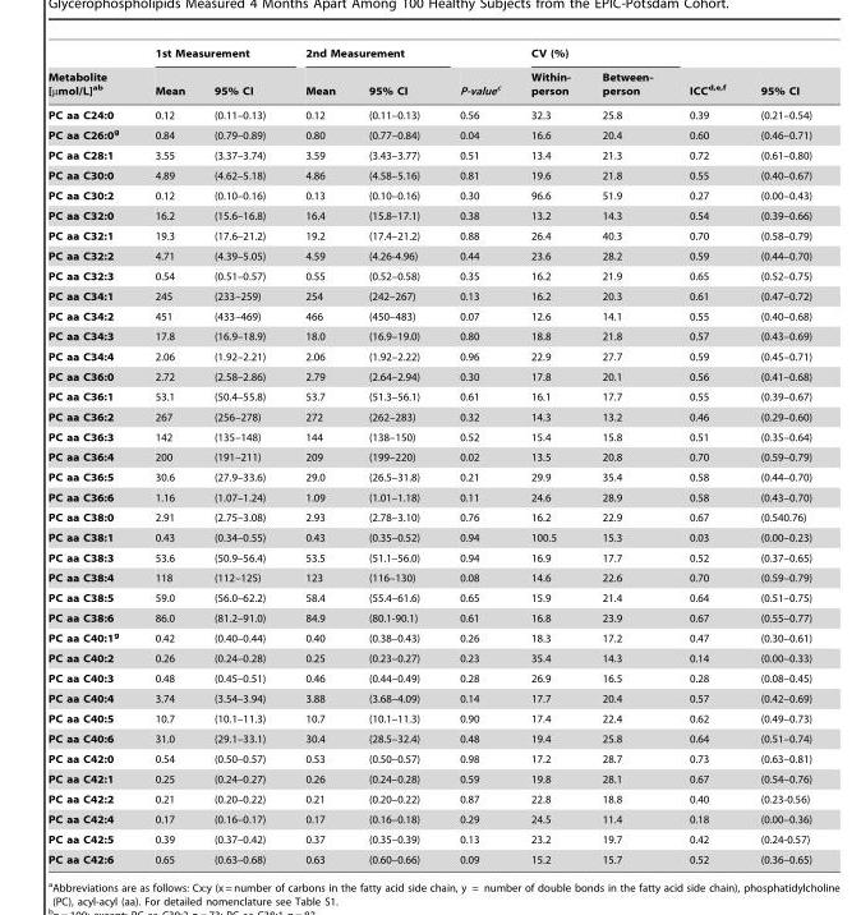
<table><thead><tr><td rowspan="2">Metabolite [µmol/L]<sup>ab</sup></td><td colspan="2">1st Measurement</td><td colspan="2">2nd Measurement</td><td rowspan="2">P-valuec</td><td colspan="2">CV (%)</td><td rowspan="2">ICC<sup>d,</sup>e<sup>,</sup>f</td><td rowspan="2">95% CI</td></tr><tr><td>Mean</td><td>95% CI</td><td>Mean</td><td>95% CI</td><td>Within- person</td><td>Between- person</td></tr></thead><tbody><tr><td>PC aa C24:0</td><td>0.12</td><td>(0.11–0.13)</td><td>0.12</td><td>(0.11–0.13)</td><td>0.56</td><td>32.3</td><td>25.8</td><td>0.39</td><td>(0.21–0.54)</td></tr><tr><td>PC aa C26:0g</td><td>0.84</td><td>(0.79–0.89)</td><td>0.80</td><td>(0.77–0.84)</td><td>0.04</td><td>16.6</td><td>20.4</td><td>0.60</td><td>(0.46–0.71)</td></tr><tr><td>PC aa C28:1</td><td>3.55</td><td>(3.37–3.74)</td><td>3.59</td><td>(3.43–3.77)</td><td>0.51</td><td>13.4</td><td>21.3</td><td>0.72</td><td>(0.61–0.80)</td></tr><tr><td>PC aa C30:0</td><td>4.89</td><td>(4.62–5.18)</td><td>4.86</td><td>(4.58–5.16)</td><td>0.81</td><td>19.6</td><td>21.8</td><td>0.55</td><td>(0.40–0.67)</td></tr><tr><td>PC aa C30:2</td><td>0.12</td><td>(0.10–0.16)</td><td>0.13</td><td>(0.10–0.16)</td><td>0.30</td><td>96.6</td><td>51.9</td><td>0.27</td><td>(0.00–0.43)</td></tr><tr><td>PC aa C32:0</td><td>16.2</td><td>(15.6–16.8)</td><td>16.4</td><td>(15.8–17.1)</td><td>0.38</td><td>13.2</td><td>14.3</td><td>0.54</td><td>(0.39–0.66)</td></tr><tr><td>PC aa C32:1</td><td>19.3</td><td>(17.6–21.2)</td><td>19.2</td><td>(17.4–21.2)</td><td>0.88</td><td>26.4</td><td>40.3</td><td>0.70</td><td>(0.58–0.79)</td></tr><tr><td>PC aa C32:2</td><td>4.71</td><td>(4.39–5.05)</td><td>4.59</td><td>(4.26-4.96)</td><td>0.44</td><td>23.6</td><td>28.2</td><td>0.59</td><td>(0.44–0.70)</td></tr><tr><td>PC aa C32:3</td><td>0.54</td><td>(0.51–0.57)</td><td>0.55</td><td>(0.52–0.58)</td><td>0.35</td><td>16.2</td><td>21.9</td><td>0.65</td><td>(0.52–0.75)</td></tr><tr><td>PC aa C34:1</td><td>245</td><td>(233–259)</td><td>254</td><td>(242–267)</td><td>0.13</td><td>16.2</td><td>20.3</td><td>0.61</td><td>(0.47–0.72)</td></tr><tr><td>PC aa C34:2</td><td>451</td><td>(433–469)</td><td>466</td><td>(450–483)</td><td>0.07</td><td>12.6</td><td>14.1</td><td>0.55</td><td>(0.40–0.68)</td></tr><tr><td>PC aa C34:3</td><td>17.8</td><td>(16.9–18.9)</td><td>18.0</td><td>(16.9–19.0)</td><td>0.80</td><td>18.8</td><td>21.8</td><td>0.57</td><td>(0.43–0.69)</td></tr><tr><td>PC aa C34:4</td><td>2.06</td><td>(1.92–2.21)</td><td>2.06</td><td>(1.92–2.22)</td><td>0.96</td><td>22.9</td><td>27.7</td><td>0.59</td><td>(0.45–0.71)</td></tr><tr><td>PC aa C36:0</td><td>2.72</td><td>(2.58–2.86)</td><td>2.79</td><td>(2.64–2.94)</td><td>0.30</td><td>17.8</td><td>20.1</td><td>0.56</td><td>(0.41–0.68)</td></tr><tr><td>PC aa C36:1</td><td>53.1</td><td>(50.4–55.8)</td><td>53.7</td><td>(51.3–56.1)</td><td>0.61</td><td>16.1</td><td>17.7</td><td>0.55</td><td>(0.39–0.67)</td></tr><tr><td>PC aa C36:2</td><td>267</td><td>(256–278)</td><td>272</td><td>(262–283)</td><td>0.32</td><td>14.3</td><td>13.2</td><td>0.46</td><td>(0.29–0.60)</td></tr><tr><td>PC aa C36:3</td><td>142</td><td>(135–148)</td><td>144</td><td>(138–150)</td><td>0.52</td><td>15.4</td><td>15.8</td><td>0.51</td><td>(0.35–0.64)</td></tr><tr><td>PC aa C36:4</td><td>200</td><td>(191–211)</td><td>209</td><td>(199–220)</td><td>0.02</td><td>13.5</td><td>20.8</td><td>0.70</td><td>(0.59–0.79)</td></tr><tr><td>PC aa C36:5</td><td>30.6</td><td>(27.9–33.6)</td><td>29.0</td><td>(26.5–31.8)</td><td>0.21</td><td>29.9</td><td>35.4</td><td>0.58</td><td>(0.44–0.70)</td></tr><tr><td>PC aa C36:6</td><td>1.16</td><td>(1.07–1.24)</td><td>1.09</td><td>(1.01–1.18)</td><td>0.11</td><td>24.6</td><td>28.9</td><td>0.58</td><td>(0.43–0.70)</td></tr><tr><td>PC aa C38:0</td><td>2.91</td><td>(2.75–3.08)</td><td>2.93</td><td>(2.78–3.10)</td><td>0.76</td><td>16.2</td><td>22.9</td><td>0.67</td><td>(0.540.76)</td></tr><tr><td>PC aa C38:1</td><td>0.43</td><td>(0.34–0.55)</td><td>0.43</td><td>(0.35–0.52)</td><td>0.94</td><td>100.5</td><td>15.3</td><td>0.03</td><td>(0.00–0.23)</td></tr><tr><td>PC aa C38:3</td><td>53.6</td><td>(50.9–56.4)</td><td>53.5</td><td>(51.1–56.0)</td><td>0.94</td><td>16.9</td><td>17.7</td><td>0.52</td><td>(0.37–0.65)</td></tr><tr><td>PC aa C38:4</td><td>118</td><td>(112–125)</td><td>123</td><td>(116–130)</td><td>0.08</td><td>14.6</td><td>22.6</td><td>0.70</td><td>(0.59–0.79)</td></tr><tr><td>PC aa C38:5</td><td>59.0</td><td>(56.0–62.2)</td><td>58.4</td><td>(55.4–61.6)</td><td>0.65</td><td>15.9</td><td>21.4</td><td>0.64</td><td>(0.51–0.75)</td></tr><tr><td>PC aa C38:6</td><td>86.0</td><td>(81.2–91.0)</td><td>84.9</td><td>(80.1-90.1)</td><td>0.61</td><td>16.8</td><td>23.9</td><td>0.67</td><td>(0.55–0.77)</td></tr><tr><td>PC aa C40:1g</td><td>0.42</td><td>(0.40–0.44)</td><td>0.40</td><td>(0.38–0.43)</td><td>0.26</td><td>18.3</td><td>17.2</td><td>0.47</td><td>(0.30–0.61)</td></tr><tr><td>PC aa C40:2</td><td>0.26</td><td>(0.24–0.28)</td><td>0.25</td><td>(0.23–0.27)</td><td>0.23</td><td>35.4</td><td>14.3</td><td>0.14</td><td>(0.00–0.33)</td></tr><tr><td>PC aa C40:3</td><td>0.48</td><td>(0.45–0.51)</td><td>0.46</td><td>(0.44–0.49)</td><td>0.28</td><td>26.9</td><td>16.5</td><td>0.28</td><td>(0.08–0.45)</td></tr><tr><td>PC aa C40:4</td><td>3.74</td><td>(3.54–3.94)</td><td>3.88</td><td>(3.68–4.09)</td><td>0.14</td><td>17.7</td><td>20.4</td><td>0.57</td><td>(0.42–0.69)</td></tr><tr><td>PC aa C40:5</td><td>10.7</td><td>(10.1–11.3)</td><td>10.7</td><td>(10.1–11.3)</td><td>0.90</td><td>17.4</td><td>22.4</td><td>0.62</td><td>(0.49–0.73)</td></tr><tr><td>PC aa C40:6</td><td>31.0</td><td>(29.1–33.1)</td><td>30.4</td><td>(28.5–32.4)</td><td>0.48</td><td>19.4</td><td>25.8</td><td>0.64</td><td>(0.51–0.74)</td></tr><tr><td>PC aa C42:0</td><td>0.54</td><td>(0.50–0.57)</td><td>0.53</td><td>(0.50–0.57)</td><td>0.98</td><td>17.2</td><td>28.7</td><td>0.73</td><td>(0.63–0.81)</td></tr><tr><td>PC aa C42:1</td><td>0.25</td><td>(0.24–0.27)</td><td>0.26</td><td>(0.24–0.28)</td><td>0.59</td><td>19.8</td><td>28.1</td><td>0.67</td><td>(0.54–0.76)</td></tr><tr><td>PC aa C42:2</td><td>0.21</td><td>(0.20–0.22)</td><td>0.21</td><td>(0.20–0.22)</td><td>0.87</td><td>22.8</td><td>18.8</td><td>0.40</td><td>(0.23-0.56)</td></tr><tr><td>PC aa C42:4</td><td>0.17</td><td>(0.16–0.17)</td><td>0.17</td><td>(0.16–0.18)</td><td>0.29</td><td>24.5</td><td>11.4</td><td>0.18</td><td>(0.00–0.36)</td></tr><tr><td>PC aa C42:5</td><td>0.39</td><td>(0.37–0.42)</td><td>0.37</td><td>(0.35–0.39)</td><td>0.13</td><td>23.2</td><td>19.7</td><td>0.42</td><td>(0.24-0.57)</td></tr><tr><td>PC aa C42:6</td><td>0.65</td><td>(0.63–0.68)</td><td>0.63</td><td>(0.60–0.66)</td><td>0.09</td><td>15.2</td><td>15.7</td><td>0.52</td><td>(0.36–0.65)</td></tr></tbody></table>